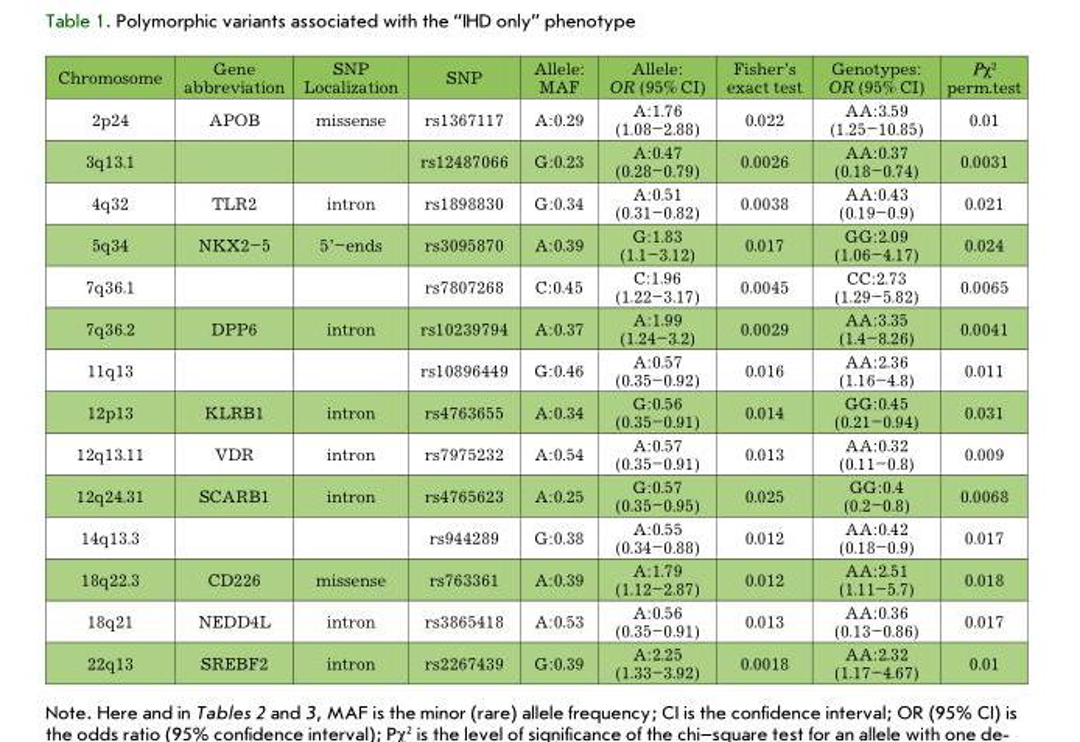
<table><thead><tr><td>Chromosome</td><td>Gene abbreviation</td><td>SNP Localization</td><td>SNP</td><td>Allele: MAF</td><td>Allele: OR (95% CI)</td><td>Fisher’s exact test</td><td>Genotypes: OR (95% CI)</td><td>Pχ<sup>2</sup> perm.test</td></tr></thead><tbody><tr><td>2p24</td><td>APOB</td><td>missense</td><td>rs1367117</td><td>A:0.29</td><td>A:1.76 (1.08–2.88)</td><td>0.022</td><td>AA:3.59 (1.25–10.85)</td><td>0.01</td></tr><tr><td>3q13.1</td><td></td><td></td><td>rs12487066</td><td>G:0.23</td><td>A:0.47 (0.28–0.79)</td><td>0.0026</td><td>AA:0.37 (0.18–0.74)</td><td>0.0031</td></tr><tr><td>4q32</td><td>TLR2</td><td>intron</td><td>rs1898830</td><td>G:0.34</td><td>A:0.51 (0.31–0.82)</td><td>0.0038</td><td>AA:0.43 (0.19–0.9)</td><td>0.021</td></tr><tr><td>5q34</td><td>NKX2–5</td><td>5’–ends</td><td>rs3095870</td><td>A:0.39</td><td>G:1.83 (1.1–3.12)</td><td>0.017</td><td>GG:2.09 (1.06–4.17)</td><td>0.024</td></tr><tr><td>7q36.1</td><td></td><td></td><td>rs7807268</td><td>C:0.45</td><td>C:1.96 (1.22–3.17)</td><td>0.0045</td><td>CC:2.73 (1.29–5.82)</td><td>0.0065</td></tr><tr><td>7q36.2</td><td>DPP6</td><td>intron</td><td>rs10239794</td><td>A:0.37</td><td>A:1.99 (1.24–3.2)</td><td>0.0029</td><td>AA:3.35 (1.4–8.26)</td><td>0.0041</td></tr><tr><td>11q13</td><td></td><td></td><td>rs10896449</td><td>G:0.46</td><td>A:0.57 (0.35–0.92)</td><td>0.016</td><td>AA:2.36 (1.16–4.8)</td><td>0.011</td></tr><tr><td>12p13</td><td>KLRB1</td><td>intron</td><td>rs4763655</td><td>A:0.34</td><td>G:0.56 (0.35–0.91)</td><td>0.014</td><td>GG:0.45 (0.21–0.94)</td><td>0.031</td></tr><tr><td>12q13.11</td><td>VDR</td><td>intron</td><td>rs7975232</td><td>A:0.54</td><td>A:0.57 (0.35–0.91)</td><td>0.013</td><td>AA:0.32 (0.11–0.8)</td><td>0.009</td></tr><tr><td>12q24.31</td><td>SCARB1</td><td>intron</td><td>rs4765623</td><td>A:0.25</td><td>G:0.57 (0.35–0.95)</td><td>0.025</td><td>GG:0.4 (0.2–0.8)</td><td>0.0068</td></tr><tr><td>14q13.3</td><td></td><td></td><td>rs944289</td><td>G:0.38</td><td>A:0.55 (0.34–0.88)</td><td>0.012</td><td>AA:0.42 (0.18–0.9)</td><td>0.017</td></tr><tr><td>18q22.3</td><td>CD226</td><td>missense</td><td>rs763361</td><td>A:0.39</td><td>A:1.79 (1.12–2.87)</td><td>0.012</td><td>AA:2.51 (1.11–5.7)</td><td>0.018</td></tr><tr><td>18q21</td><td>NEDD4L</td><td>intron</td><td>rs3865418</td><td>A:0.53</td><td>A:0.56 (0.35–0.91)</td><td>0.013</td><td>AA:0.36 (0.13–0.86)</td><td>0.017</td></tr><tr><td>22q13</td><td>SREBF2</td><td>intron</td><td>rs2267439</td><td>G:0.39</td><td>A:2.25 (1.33–3.92)</td><td>0.0018</td><td>AA:2.32 (1.17–4.67)</td><td>0.01</td></tr></tbody></table>